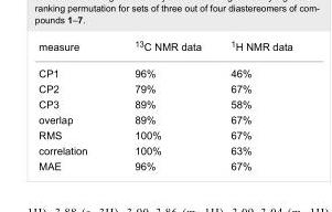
<table><tbody><tr><td>measure</td><td><sup>13</sup>C NMR data</td><td><sup>1</sup>H NMR data</td></tr><tr><td>CP1</td><td>96%</td><td>46%</td></tr><tr><td>CP2</td><td>79%</td><td>67%</td></tr><tr><td>CP3</td><td>89%</td><td>58%</td></tr><tr><td>overlap</td><td>89%</td><td>67%</td></tr><tr><td>RMS</td><td>100%</td><td>67%</td></tr><tr><td>correlation</td><td>100%</td><td>63%</td></tr><tr><td>MAE</td><td>96%</td><td>67%</td></tr></tbody></table>